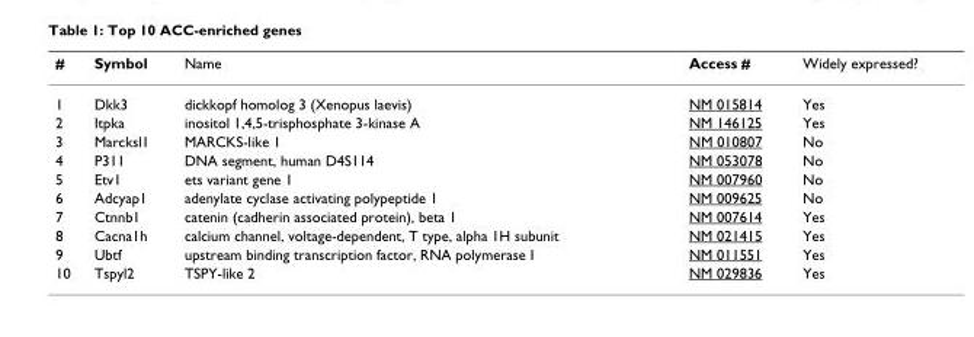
<table><thead><tr><td>#</td><td>Symbol</td><td>Name</td><td>Access #</td><td>Widely expressed?</td></tr></thead><tbody><tr><td>1</td><td>Dkk3</td><td>dickkopf homolog 3 (Xenopus laevis)</td><td>NM 015814</td><td>Yes</td></tr><tr><td>2</td><td>Itpka</td><td>inositol 1,4,5-trisphosphate 3-kinase A</td><td>NM 146125</td><td>Yes</td></tr><tr><td>3</td><td>Marcksl1</td><td>MARCKS-like 1</td><td>NM 010807</td><td>No</td></tr><tr><td>4</td><td>P311</td><td>DNA segment, human D4S114</td><td>NM 053078</td><td>No</td></tr><tr><td>5</td><td>Etv1</td><td>ets variant gene 1</td><td>NM 007960</td><td>No</td></tr><tr><td>6</td><td>Adcyap1</td><td>adenylate cyclase activating polypeptide 1</td><td>NM 009625</td><td>No</td></tr><tr><td>7</td><td>Ctnnb1</td><td>catenin (cadherin associated protein), beta 1</td><td>NM 007614</td><td>Yes</td></tr><tr><td>8</td><td>Cacna1h</td><td>calcium channel, voltage-dependent, T type, alpha 1H subunit</td><td>NM 021415</td><td>Yes</td></tr><tr><td>9</td><td>Ubtf</td><td>upstream binding transcription factor, RNA polymerase I</td><td>NM 011551</td><td>Yes</td></tr><tr><td>10</td><td>Tspyl2</td><td>TSPY-like 2</td><td>NM 029836</td><td>Yes</td></tr></tbody></table>